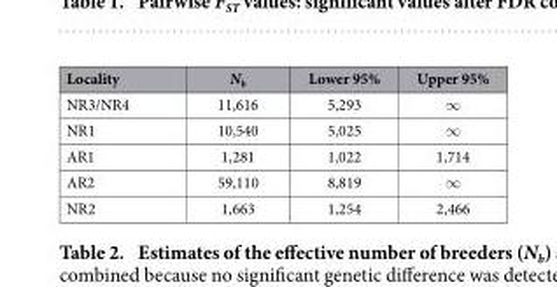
<table><thead><tr><td>Locality</td><td>N<sub>b</sub></td><td>Lower 95%</td><td>Upper 95%</td></tr></thead><tbody><tr><td>NR3/NR4</td><td>11,616</td><td>5,293</td><td>∞</td></tr><tr><td>NR1</td><td>10,540</td><td>5,025</td><td>∞</td></tr><tr><td>AR1</td><td>1,281</td><td>1,022</td><td>1,714</td></tr><tr><td>AR2</td><td>59,110</td><td>8,819</td><td>∞</td></tr><tr><td>NR2</td><td>1,663</td><td>1,254</td><td>2,466</td></tr></tbody></table>